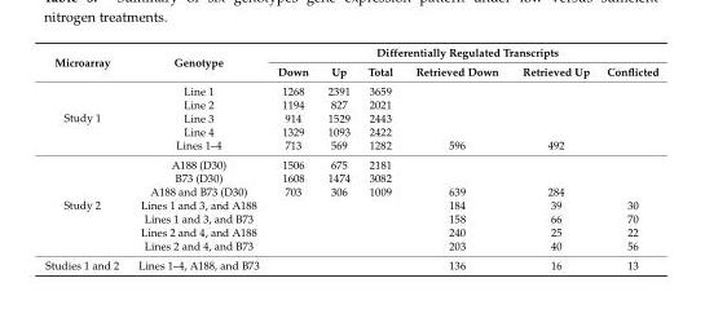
<table><thead><tr><td rowspan="2">Microarray</td><td rowspan="2">Genotype</td><td colspan="6">Differentially Regulated Transcripts</td></tr><tr><td>Down</td><td>Up</td><td>Total</td><td>Retrieved Down</td><td>Retrieved Up</td><td>Conflicted</td></tr></thead><tbody><tr><td rowspan="5">Study 1</td><td>Line 1</td><td>1268</td><td>2391</td><td>3659</td><td></td><td></td><td></td></tr><tr><td>Line 2</td><td>1194</td><td>827</td><td>2021</td><td></td><td></td><td></td></tr><tr><td>Line 3</td><td>914</td><td>1529</td><td>2443</td><td></td><td></td><td></td></tr><tr><td>Line 4</td><td>1329</td><td>1093</td><td>2422</td><td></td><td></td><td></td></tr><tr><td>Lines 1–4</td><td>713</td><td>569</td><td>1282</td><td>596</td><td>492</td><td></td></tr><tr><td rowspan="7">Study 2</td><td>A188 (D30)</td><td>1506</td><td>675</td><td>2181</td><td></td><td></td><td></td></tr><tr><td>B73 (D30)</td><td>1608</td><td>1474</td><td>3082</td><td></td><td></td><td></td></tr><tr><td>A188 and B73 (D30)</td><td>703</td><td>306</td><td>1009</td><td>639</td><td>284</td><td></td></tr><tr><td>Lines 1 and 3, and A188</td><td></td><td></td><td></td><td>184</td><td>39</td><td>30</td></tr><tr><td>Lines 1 and 3, and B73</td><td></td><td></td><td></td><td>158</td><td>66</td><td>70</td></tr><tr><td>Lines 2 and 4, and A188</td><td></td><td></td><td></td><td>240</td><td>25</td><td>22</td></tr><tr><td>Lines 2 and 4, and B73</td><td></td><td></td><td></td><td>203</td><td>40</td><td>56</td></tr><tr><td>Studies 1 and 2</td><td>Lines 1–4, A188, and B73</td><td></td><td></td><td></td><td>136</td><td>16</td><td>13</td></tr></tbody></table>